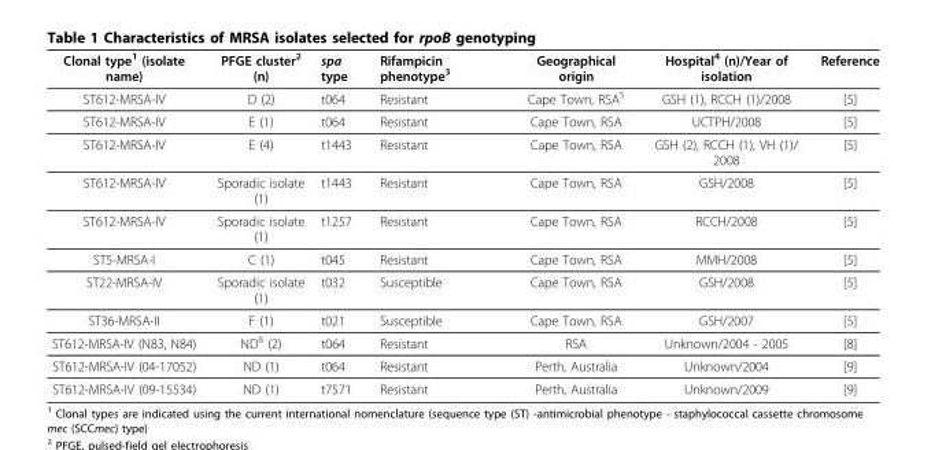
<table><thead><tr><td>Clonal type<sup>1</sup> (isolate name)</td><td>PFGE cluster<sup>2</sup> (n)</td><td>spa type</td><td>Rifampicin phenotype<sup>3</sup></td><td>Geographical origin</td><td>Hospital<sup>4</sup> (n)/Year of isolation</td><td>Reference</td></tr></thead><tbody><tr><td>ST612-MRSA-IV</td><td>D (2)</td><td>t064</td><td>Resistant</td><td>Cape Town, RSA<sup>5</sup></td><td>GSH (1), RCCH (1)/2008</td><td>[5]</td></tr><tr><td>ST612-MRSA-IV</td><td>E (1)</td><td>t064</td><td>Resistant</td><td>Cape Town, RSA</td><td>UCTPH/2008</td><td>[5]</td></tr><tr><td>ST612-MRSA-IV</td><td>E (4)</td><td>t1443</td><td>Resistant</td><td>Cape Town, RSA</td><td>GSH (2), RCCH (1), VH (1)/ 2008</td><td>[5]</td></tr><tr><td>ST612-MRSA-IV</td><td>Sporadic isolate (1)</td><td>t1443</td><td>Resistant</td><td>Cape Town, RSA</td><td>GSH/2008</td><td>[5]</td></tr><tr><td>ST612-MRSA-IV</td><td>Sporadic isolate (1)</td><td>t1257</td><td>Resistant</td><td>Cape Town, RSA</td><td>RCCH/2008</td><td>[5]</td></tr><tr><td>ST5-MRSA-I</td><td>C (1)</td><td>t045</td><td>Resistant</td><td>Cape Town, RSA</td><td>MMH/2008</td><td>[5]</td></tr><tr><td>ST22-MRSA-IV</td><td>Sporadic isolate (1)</td><td>t032</td><td>Susceptible</td><td>Cape Town, RSA</td><td>GSH/2008</td><td>[5]</td></tr><tr><td>ST36-MRSA-II</td><td>F (1)</td><td>t021</td><td>Susceptible</td><td>Cape Town, RSA</td><td>GSH/2007</td><td>[5]</td></tr><tr><td>ST612-MRSA-IV (N83, N84)</td><td>ND<sup>6</sup> (2)</td><td>t064</td><td>Resistant</td><td>RSA</td><td>Unknown/2004 - 2005</td><td>[8]</td></tr><tr><td>ST612-MRSA-IV (04-17052)</td><td>ND (1)</td><td>t064</td><td>Resistant</td><td>Perth, Australia</td><td>Unknown/2004</td><td>[9]</td></tr><tr><td>ST612-MRSA-IV (09-15534)</td><td>ND (1)</td><td>t7571</td><td>Resistant</td><td>Perth, Australia</td><td>Unknown/2009</td><td>[9]</td></tr></tbody></table>